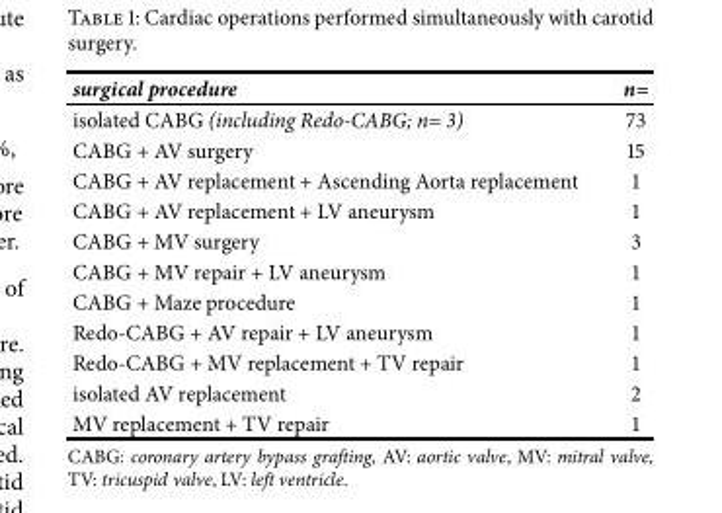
<table><thead><tr><td>surgical procedure</td><td>n=</td></tr></thead><tbody><tr><td>isolated CABG (including Redo-CABG; n= 3)</td><td>73</td></tr><tr><td>CABG + AV surgery</td><td>15</td></tr><tr><td>CABG + AV replacement + Ascending Aorta replacement</td><td>1</td></tr><tr><td>CABG + AV replacement + LV aneurysm</td><td>1</td></tr><tr><td>CABG + MV surgery</td><td>3</td></tr><tr><td>CABG + MV repair + LV aneurysm</td><td>1</td></tr><tr><td>CABG + Maze procedure</td><td>1</td></tr><tr><td>Redo-CABG + AV repair + LV aneurysm</td><td>1</td></tr><tr><td>Redo-CABG + MV replacement + TV repair</td><td>1</td></tr><tr><td>isolated AV replacement</td><td>2</td></tr><tr><td>MV replacement + TV repair</td><td>1</td></tr></tbody></table>